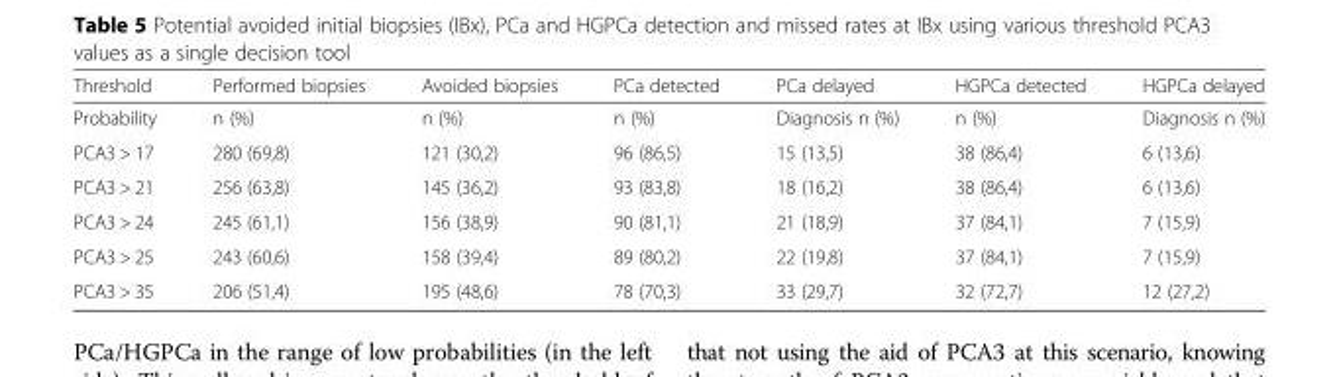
<table><thead><tr><td>Threshold</td><td>Performed biopsies</td><td>Avoided biopsies</td><td>PCa detected</td><td>PCa delayed</td><td>HGPCa detected</td><td>HGPCa delayed</td></tr></thead><tbody><tr><td>Probability</td><td>n (%)</td><td>n (%)</td><td>n (%)</td><td>Diagnosis n (%)</td><td>n (%)</td><td>Diagnosis n (%)</td></tr><tr><td>PCA3 &gt; 17</td><td>280 (69,8)</td><td>121 (30,2)</td><td>96 (86,5)</td><td>15 (13,5)</td><td>38 (86,4)</td><td>6 (13,6)</td></tr><tr><td>PCA3 &gt; 21</td><td>256 (63,8)</td><td>145 (36,2)</td><td>93 (83,8)</td><td>18 (16,2)</td><td>38 (86,4)</td><td>6 (13,6)</td></tr><tr><td>PCA3 &gt; 24</td><td>245 (61,1)</td><td>156 (38,9)</td><td>90 (81,1)</td><td>21 (18,9)</td><td>37 (84,1)</td><td>7 (15,9)</td></tr><tr><td>PCA3 &gt; 25</td><td>243 (60,6)</td><td>158 (39,4)</td><td>89 (80,2)</td><td>22 (19,8)</td><td>37 (84,1)</td><td>7 (15,9)</td></tr><tr><td>PCA3 &gt; 35</td><td>206 (51,4)</td><td>195 (48,6)</td><td>78 (70,3)</td><td>33 (29,7)</td><td>32 (72,7)</td><td>12 (27,2)</td></tr></tbody></table>